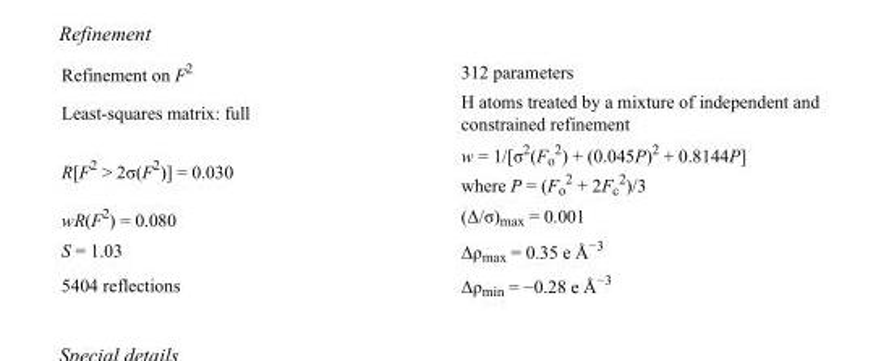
<table><tbody><tr><td>Refinement on F<sup>2</sup></td><td>312 parameters</td></tr><tr><td>Least-squares matrix: full</td><td>H atoms treated by a mixture of independent and constrained refinement</td></tr><tr><td>R[F<sup>2</sup> &gt; 2σ(F<sup>2</sup>)] = 0.030</td><td>w = 1/[σ<sup>2</sup>(F<sub>o</sub> <sup>2</sup>) + (0.045P)<sup>2</sup> + 0.8144P] where P = (F<sub>o</sub> <sup>2</sup> + 2F<sub>c</sub> <sup>2</sup>)/3</td></tr><tr><td>wR(F<sup>2</sup>) = 0.080</td><td>(Δ/σ)<sub>max</sub> = 0.001</td></tr><tr><td>S = 1.03</td><td>Δρ<sub>max</sub> = 0.35 e Å<sup>−3</sup></td></tr><tr><td>5404 reflections</td><td>Δρ<sub>min</sub> = −0.28 e Å<sup>−3</sup></td></tr></tbody></table>